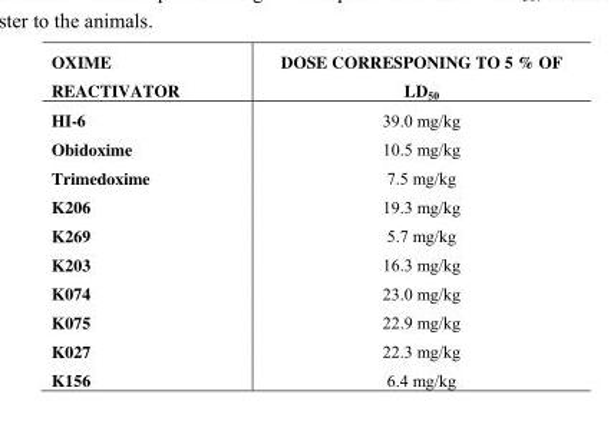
<table><thead><tr><td>OXIME REACTIVATOR</td><td>DOSE CORRESPONING TO 5 % OF LD<sub>50</sub></td></tr></thead><tbody><tr><td>HI-6</td><td>39.0 mg/kg</td></tr><tr><td>Obidoxime</td><td>10.5 mg/kg</td></tr><tr><td>Trimedoxime</td><td>7.5 mg/kg</td></tr><tr><td>K206</td><td>19.3 mg/kg</td></tr><tr><td>K269</td><td>5.7 mg/kg</td></tr><tr><td>K203</td><td>16.3 mg/kg</td></tr><tr><td>K074</td><td>23.0 mg/kg</td></tr><tr><td>K075</td><td>22.9 mg/kg</td></tr><tr><td>K027</td><td>22.3 mg/kg</td></tr><tr><td>K156</td><td>6.4 mg/kg</td></tr></tbody></table>